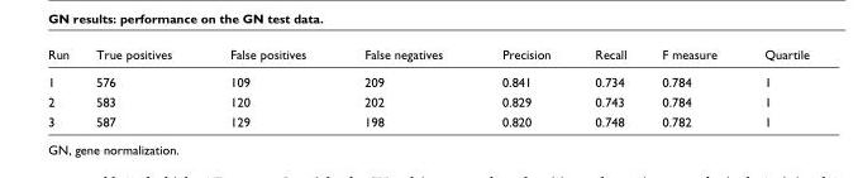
<table><thead><tr><td>Run</td><td>True positives</td><td>False positives</td><td>False negatives</td><td>Precision</td><td>Recall</td><td>F measure</td><td>Quartile</td></tr></thead><tbody><tr><td>1</td><td>576</td><td>109</td><td>209</td><td>0.841</td><td>0.734</td><td>0.784</td><td>1</td></tr><tr><td>2</td><td>583</td><td>120</td><td>202</td><td>0.829</td><td>0.743</td><td>0.784</td><td>1</td></tr><tr><td>3</td><td>587</td><td>129</td><td>198</td><td>0.820</td><td>0.748</td><td>0.782</td><td>1</td></tr></tbody></table>